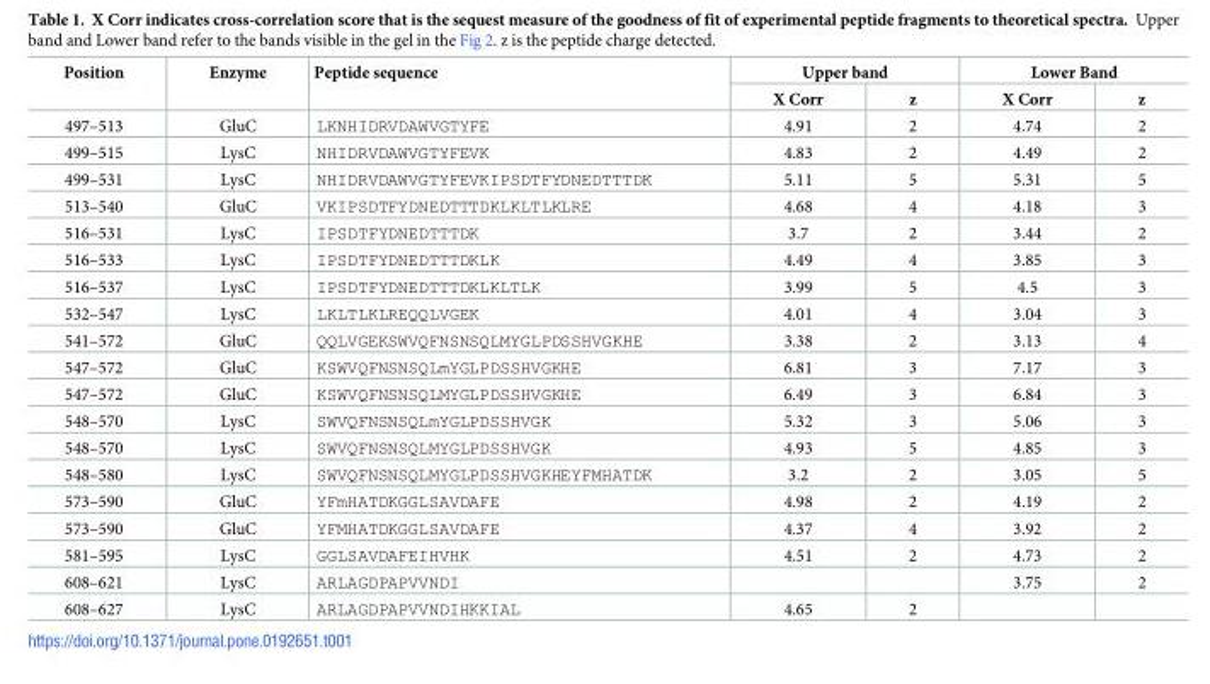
<table><thead><tr><td rowspan="2">Position</td><td rowspan="2">Enzyme</td><td rowspan="2">Peptide sequence</td><td colspan="2">Upper band</td><td colspan="2">Lower Band</td></tr><tr><td>X Corr</td><td>z</td><td>X Corr</td><td>z</td></tr></thead><tbody><tr><td>497–513</td><td>GluC</td><td>LKNHIDRVDAWVGTYFE</td><td>4.91</td><td>2</td><td>4.74</td><td>2</td></tr><tr><td>499–515</td><td>LysC</td><td>NHIDRVDAWVGTYFEVK</td><td>4.83</td><td>2</td><td>4.49</td><td>2</td></tr><tr><td>499–531</td><td>LysC</td><td>NHIDRVDAWVGTYFEVKIPSDTFYDNEDTTTDK</td><td>5.11</td><td>5</td><td>5.31</td><td>5</td></tr><tr><td>513–540</td><td>GluC</td><td>VKIPSDTFYDNEDTTTDKLKLTLKLRE</td><td>4.68</td><td>4</td><td>4.18</td><td>3</td></tr><tr><td>516–531</td><td>LysC</td><td>IPSDTFYDNEDTTTDK</td><td>3.7</td><td>2</td><td>3.44</td><td>2</td></tr><tr><td>516–533</td><td>LysC</td><td>IPSDTFYDNEDTTTDKLK</td><td>4.49</td><td>4</td><td>3.85</td><td>3</td></tr><tr><td>516–537</td><td>LysC</td><td>IPSDTFYDNEDTTTDKLKLTLK</td><td>3.99</td><td>5</td><td>4.5</td><td>3</td></tr><tr><td>532–547</td><td>LysC</td><td>LKLTLKLREQQLVGEK</td><td>4.01</td><td>4</td><td>3.04</td><td>3</td></tr><tr><td>541–572</td><td>GluC</td><td>QQLVGEKSWVQFNSNSQLMYGLPDSSHVGKHE</td><td>3.38</td><td>2</td><td>3.13</td><td>4</td></tr><tr><td>547–572</td><td>GluC</td><td>KSWVQFNSNSQLmYGLPDSSHVGKHE</td><td>6.81</td><td>3</td><td>7.17</td><td>3</td></tr><tr><td>547–572</td><td>GluC</td><td>KSWVQFNSNSQLMYGLPDSSHVGKHE</td><td>6.49</td><td>3</td><td>6.84</td><td>3</td></tr><tr><td>548–570</td><td>LysC</td><td>SWVQFNSNSQLmYGLPDSSHVGK</td><td>5.32</td><td>3</td><td>5.06</td><td>3</td></tr><tr><td>548–570</td><td>LysC</td><td>SWVQFNSNSQLMYGLPDSSHVGK</td><td>4.93</td><td>5</td><td>4.85</td><td>3</td></tr><tr><td>548–580</td><td>LysC</td><td>SWVQFNSNSQLMYGLPDSSHVGKHEYFMHATDK</td><td>3.2</td><td>2</td><td>3.05</td><td>5</td></tr><tr><td>573–590</td><td>GluC</td><td>YFmHATDKGGLSAVDAFE</td><td>4.98</td><td>2</td><td>4.19</td><td>2</td></tr><tr><td>573–590</td><td>GluC</td><td>YFMHATDKGGLSAVDAFE</td><td>4.37</td><td>4</td><td>3.92</td><td>2</td></tr><tr><td>581–595</td><td>LysC</td><td>GGLSAVDAFEIHVHK</td><td>4.51</td><td>2</td><td>4.73</td><td>2</td></tr><tr><td>608–621</td><td>LysC</td><td>ARLAGDPAPVVNDI</td><td></td><td></td><td>3.75</td><td>2</td></tr><tr><td>608–627</td><td>LysC</td><td>ARLAGDPAPVVNDIHKKIAL</td><td>4.65</td><td>2</td><td></td><td></td></tr></tbody></table>